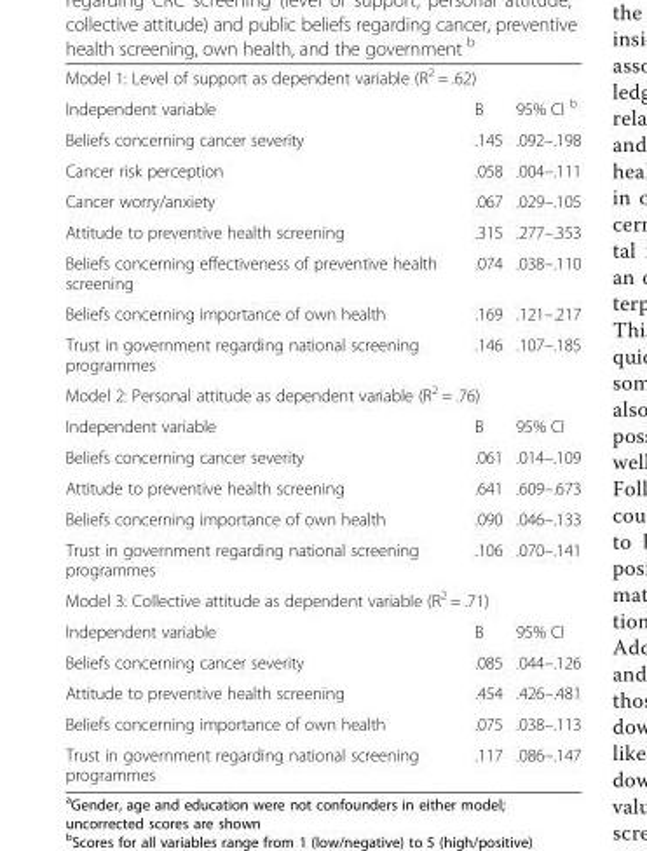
<table><tbody><tr><td colspan="3">Model 1: Level of support as dependent variable (R<sup>2</sup> = .62)</td></tr><tr><td>Independent variable</td><td>B</td><td>95% CI <sup>b</sup></td></tr><tr><td>Beliefs concerning cancer severity</td><td>.145</td><td>.092–.198</td></tr><tr><td>Cancer risk perception</td><td>.058</td><td>.004–.111</td></tr><tr><td>Cancer worry/anxiety</td><td>.067</td><td>.029–.105</td></tr><tr><td>Attitude to preventive health screening</td><td>.315</td><td>.277–.353</td></tr><tr><td>Beliefs concerning effectiveness of preventive health screening</td><td>.074</td><td>.038–.110</td></tr><tr><td>Beliefs concerning importance of own health</td><td>.169</td><td>.121–.217</td></tr><tr><td>Trust in government regarding national screening programmes</td><td>.146</td><td>.107–.185</td></tr><tr><td colspan="3">Model 2: Personal attitude as dependent variable (R<sup>2</sup> = .76)</td></tr><tr><td>Independent variable</td><td>B</td><td>95% CI</td></tr><tr><td>Beliefs concerning cancer severity</td><td>.061</td><td>.014–.109</td></tr><tr><td>Attitude to preventive health screening</td><td>.641</td><td>.609–.673</td></tr><tr><td>Beliefs concerning importance of own health</td><td>.090</td><td>.046–.133</td></tr><tr><td>Trust in government regarding national screening programmes</td><td>.106</td><td>.070–.141</td></tr><tr><td colspan="3">Model 3: Collective attitude as dependent variable (R<sup>2</sup> = .71)</td></tr><tr><td>Independent variable</td><td>B</td><td>95% CI</td></tr><tr><td>Beliefs concerning cancer severity</td><td>.085</td><td>.044–.126</td></tr><tr><td>Attitude to preventive health screening</td><td>.454</td><td>.426–.481</td></tr><tr><td>Beliefs concerning importance of own health</td><td>.075</td><td>.038–.113</td></tr><tr><td>Trust in government regarding national screening programmes</td><td>.117</td><td>.086–.147</td></tr></tbody></table>